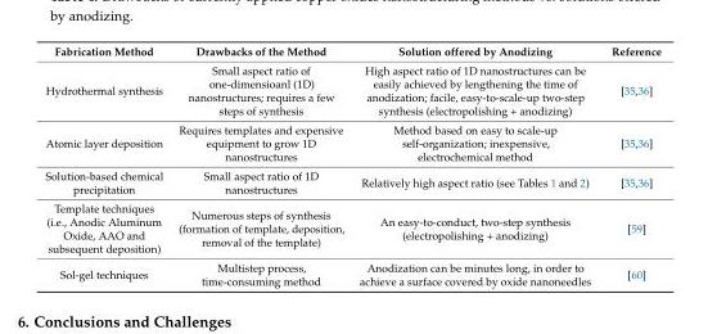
<table><thead><tr><td>Fabrication Method</td><td>Drawbacks of the Method</td><td>Solution offered by Anodizing</td><td>Reference</td></tr></thead><tbody><tr><td>Hydrothermal synthesis</td><td>Small aspect ratio of one-dimensioanl (1D) nanostructures; requires a few steps of synthesis</td><td>High aspect ratio of 1D nanostructures can be easily achieved by lengthening the time of anodization; facile, easy-to-scale-up two-step synthesis (electropolishing + anodizing)</td><td>[35,36]</td></tr><tr><td>Atomic layer deposition</td><td>Requires templates and expensive equipment to grow 1D nanostructures</td><td>Method based on easy to scale-up self-organization; inexpensive, electrochemical method</td><td>[35,36]</td></tr><tr><td>Solution-based chemical precipitation</td><td>Small aspect ratio of 1D nanostructures</td><td>Relatively high aspect ratio (see Tables 1 and 2)</td><td>[35,36]</td></tr><tr><td>Template techniques (i.e., Anodic Aluminum Oxide, AAO and subsequent deposition)</td><td>Numerous steps of synthesis (formation of template, deposition, removal of the template)</td><td>An easy-to-conduct, two-step synthesis (electropolishing + anodizing)</td><td>[59]</td></tr><tr><td>Sol-gel techniques</td><td>Multistep process, time-consuming method</td><td>Anodization can be minutes long, in order to achieve a surface covered by oxide nanoneedles</td><td>[60]</td></tr></tbody></table>